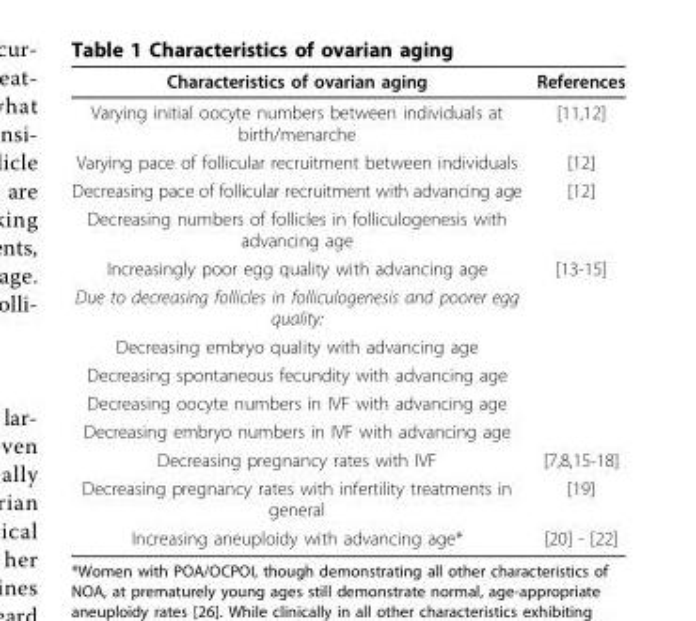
<table><thead><tr><td>Characteristics of ovarian aging</td><td>References</td></tr></thead><tbody><tr><td>Varying initial oocyte numbers between individuals at birth/menarche</td><td>[11,12]</td></tr><tr><td>Varying pace of follicular recruitment between individuals</td><td>[12]</td></tr><tr><td>Decreasing pace of follicular recruitment with advancing age</td><td>[12]</td></tr><tr><td colspan="2">Decreasing numbers of follicles in folliculogenesis with advancing age</td></tr><tr><td>Increasingly poor egg quality with advancing age</td><td>[13-15]</td></tr><tr><td colspan="2">Due to decreasing follicles in folliculogenesis and poorer egg quality:</td></tr><tr><td colspan="2">Decreasing embryo quality with advancing age</td></tr><tr><td colspan="2">Decreasing spontaneous fecundity with advancing age</td></tr><tr><td colspan="2">Decreasing oocyte numbers in IVF with advancing age</td></tr><tr><td colspan="2">Decreasing embryo numbers in IVF with advancing age</td></tr><tr><td>Decreasing pregnancy rates with IVF</td><td>[7,8,15-18]</td></tr><tr><td>Decreasing pregnancy rates with infertility treatments in general</td><td>[19]</td></tr><tr><td>Increasing aneuploidy with advancing age*</td><td>[20] - [22]</td></tr></tbody></table>